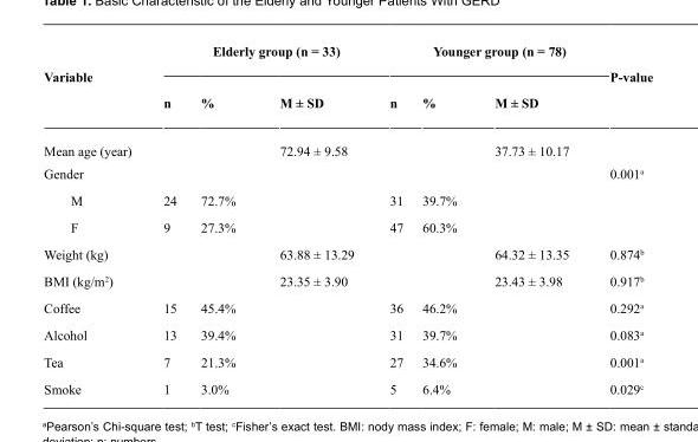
<table><thead><tr><td rowspan="2">Variable</td><td colspan="3">Elderly group (n = 33)</td><td colspan="3">Younger group (n = 78)</td><td rowspan="2">P-value</td></tr><tr><td>n</td><td>%</td><td>M ± SD</td><td>n</td><td>%</td><td>M ± SD</td></tr></thead><tbody><tr><td>Mean age (year)</td><td colspan="2"></td><td>72.94 ± 9.58</td><td></td><td></td><td>37.73 ± 10.17</td><td></td></tr><tr><td colspan="3">Gender</td><td></td><td></td><td></td><td></td><td>0.001<sup>a</sup></td></tr><tr><td>M</td><td>24</td><td>72.7%</td><td></td><td>31</td><td>39.7%</td><td></td><td></td></tr><tr><td>F</td><td>9</td><td>27.3%</td><td></td><td>47</td><td>60.3%</td><td></td><td></td></tr><tr><td>Weight (kg)</td><td colspan="2"></td><td>63.88 ± 13.29</td><td></td><td></td><td>64.32 ± 13.35</td><td>0.874<sup>b</sup></td></tr><tr><td>BMI (kg/m<sup>2</sup>)</td><td colspan="2"></td><td>23.35 ± 3.90</td><td></td><td></td><td>23.43 ± 3.98</td><td>0.917<sup>b</sup></td></tr><tr><td>Coffee</td><td>15</td><td>45.4%</td><td></td><td>36</td><td>46.2%</td><td></td><td>0.292<sup>a</sup></td></tr><tr><td>Alcohol</td><td>13</td><td>39.4%</td><td></td><td>31</td><td>39.7%</td><td></td><td>0.083<sup>a</sup></td></tr><tr><td>Tea</td><td>7</td><td>21.3%</td><td></td><td>27</td><td>34.6%</td><td></td><td>0.001<sup>a</sup></td></tr><tr><td>Smoke</td><td>1</td><td>3.0%</td><td></td><td>5</td><td>6.4%</td><td></td><td>0.029<sup>c</sup></td></tr></tbody></table>